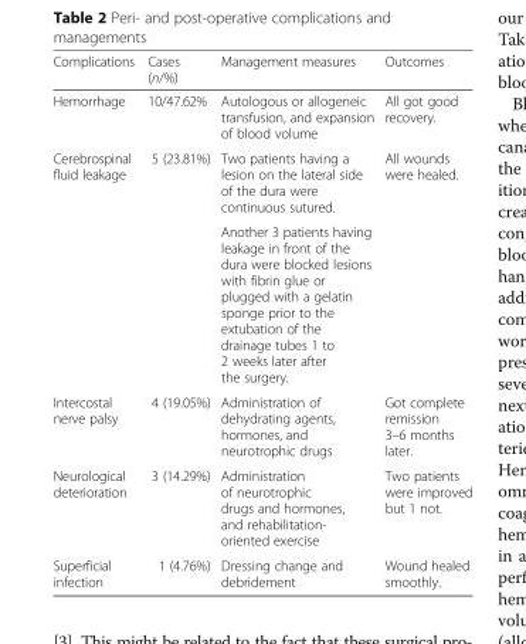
<table><thead><tr><td>Complications</td><td>Cases (n/%)</td><td>Management measures</td><td>Outcomes</td></tr></thead><tbody><tr><td>Hemorrhage</td><td>10/47.62%</td><td>Autologous or allogeneic transfusion, and expansion of blood volume</td><td>All got good recovery.</td></tr><tr><td rowspan="2">Cerebrospinal fluid leakage</td><td rowspan="2">5 (23.81%)</td><td>Two patients having a lesion on the lateral side of the dura were continuous sutured.</td><td rowspan="2">All wounds were healed.</td></tr><tr><td>Another 3 patients having leakage in front of the dura were blocked lesions with fibrin glue or plugged with a gelatin sponge prior to the extubation of the drainage tubes 1 to 2 weeks later after the surgery.</td></tr><tr><td>Intercostal nerve palsy</td><td>4 (19.05%)</td><td>Administration of dehydrating agents, hormones, and neurotrophic drugs</td><td>Got complete remission 3–6 months later.</td></tr><tr><td>Neurological deterioration</td><td>3 (14.29%)</td><td>Administration of neurotrophic drugs and hormones, and rehabilitation- oriented exercise</td><td>Two patients were improved but 1 not.</td></tr><tr><td>Superficial infection</td><td>1 (4.76%)</td><td>Dressing change and debridement</td><td>Wound healed smoothly.</td></tr></tbody></table>